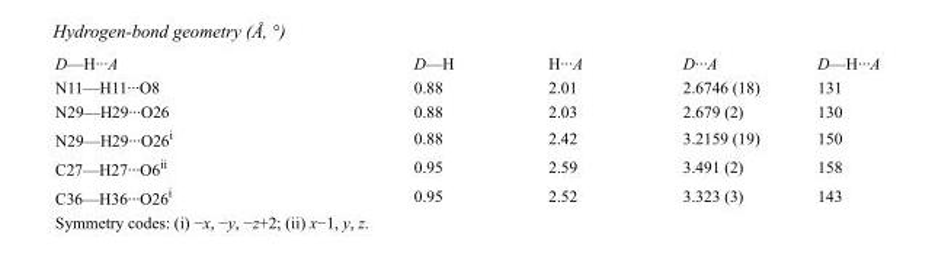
<table><tbody><tr><td>D—H···A</td><td>D—H</td><td>H···A</td><td>D···A</td><td>D—H···A</td></tr><tr><td>N11—H11···O8</td><td>0.88</td><td>2.01</td><td>2.6746 (18)</td><td>131</td></tr><tr><td>N29—H29···O26</td><td>0.88</td><td>2.03</td><td>2.679 (2)</td><td>130</td></tr><tr><td>N29—H29···O26<sup>i</sup></td><td>0.88</td><td>2.42</td><td>3.2159 (19)</td><td>150</td></tr><tr><td>C27—H27···O6<sup>ii</sup></td><td>0.95</td><td>2.59</td><td>3.491 (2)</td><td>158</td></tr><tr><td>C36—H36···O26<sup>i</sup></td><td>0.95</td><td>2.52</td><td>3.323 (3)</td><td>143</td></tr></tbody></table>